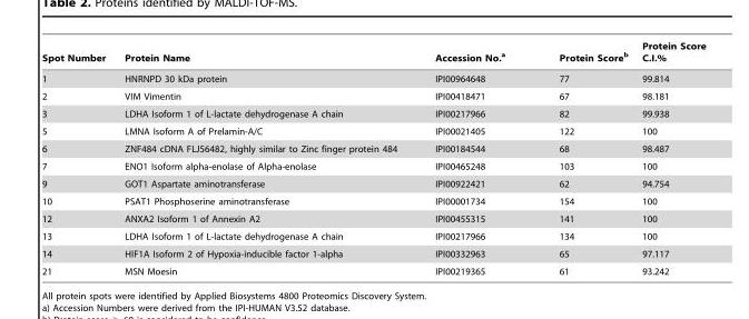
<table><thead><tr><td>Spot Number</td><td>Protein Name</td><td>Accession No.<sup>a</sup></td><td>Protein Score<sup>b</sup></td><td>Protein Score C.I.%</td></tr></thead><tbody><tr><td>1</td><td>HNRNPD 30 kDa protein</td><td>IPI00964648</td><td>77</td><td>99.814</td></tr><tr><td>2</td><td>VIM Vimentin</td><td>IPI00418471</td><td>67</td><td>98.181</td></tr><tr><td>3</td><td>LDHA Isoform 1 of L-lactate dehydrogenase A chain</td><td>IPI00217966</td><td>82</td><td>99.938</td></tr><tr><td>5</td><td>LMNA Isoform A of Prelamin-A/C</td><td>IPI00021405</td><td>122</td><td>100</td></tr><tr><td>6</td><td>ZNF484 cDNA FLJ56482, highly similar to Zinc finger protein 484</td><td>IPI00184544</td><td>68</td><td>98.487</td></tr><tr><td>7</td><td>ENO1 Isoform alpha-enolase of Alpha-enolase</td><td>IPI00465248</td><td>103</td><td>100</td></tr><tr><td>9</td><td>GOT1 Aspartate aminotransferase</td><td>IPI00922421</td><td>62</td><td>94.754</td></tr><tr><td>10</td><td>PSAT1 Phosphoserine aminotransferase</td><td>IPI00001734</td><td>154</td><td>100</td></tr><tr><td>12</td><td>ANXA2 Isoform 1 of Annexin A2</td><td>IPI00455315</td><td>141</td><td>100</td></tr><tr><td>13</td><td>LDHA Isoform 1 of L-lactate dehydrogenase A chain</td><td>IPI00217966</td><td>134</td><td>100</td></tr><tr><td>14</td><td>HIF1A Isoform 2 of Hypoxia-inducible factor 1-alpha</td><td>IPI00332963</td><td>65</td><td>97.117</td></tr><tr><td>21</td><td>MSN Moesin</td><td>IPI00219365</td><td>61</td><td>93.242</td></tr></tbody></table>